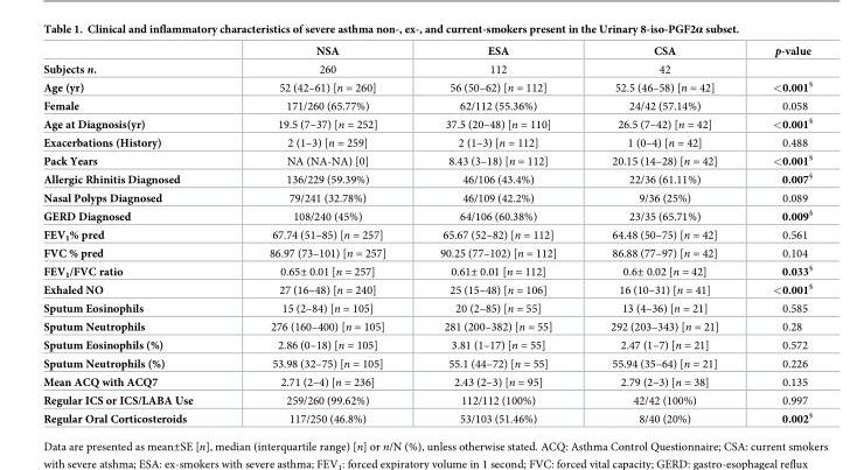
<table><thead><tr><td></td><td>NSA</td><td>ESA</td><td>CSA</td><td>p-value</td></tr></thead><tbody><tr><td>Subjects n.</td><td>260</td><td>112</td><td>42</td><td></td></tr><tr><td>Age (yr)</td><td>52 (42–61) [n = 260]</td><td>56 (50–62) [n = 112]</td><td>52.5 (46–58) [n = 42]</td><td>&lt;0.001<sup>§</sup></td></tr><tr><td>Female</td><td>171/260 (65.77%)</td><td>62/112 (55.36%)</td><td>24/42 (57.14%)</td><td>0.058</td></tr><tr><td>Age at Diagnosis(yr)</td><td>19.5 (7–37) [n = 252]</td><td>37.5 (20–48) [n = 110]</td><td>26.5 (7–42) [n = 42]</td><td>&lt;0.001<sup>§</sup></td></tr><tr><td>Exacerbations (History)</td><td>2 (1–3) [n = 259]</td><td>2 (1–3) [n = 112]</td><td>1 (0–4) [n = 42]</td><td>0.488</td></tr><tr><td>Pack Years</td><td>NA (NA-NA) [0]</td><td>8.43 (3–18) [n = 112]</td><td>20.15 (14–28) [n = 42]</td><td>&lt;0.001<sup>§</sup></td></tr><tr><td>Allergic Rhinitis Diagnosed</td><td>136/229 (59.39%)</td><td>46/106 (43.4%)</td><td>22/36 (61.11%)</td><td>0.007<sup>§</sup></td></tr><tr><td>Nasal Polyps Diagnosed</td><td>79/241 (32.78%)</td><td>46/109 (42.2%)</td><td>9/36 (25%)</td><td>0.089</td></tr><tr><td>GERD Diagnosed</td><td>108/240 (45%)</td><td>64/106 (60.38%)</td><td>23/35 (65.71%)</td><td>0.009<sup>§</sup></td></tr><tr><td>FEV<sub>1</sub>% pred</td><td>67.74 (51–85) [n = 257]</td><td>65.67 (52–82) [n = 112]</td><td>64.48 (50–75) [n = 42]</td><td>0.561</td></tr><tr><td>FVC % pred</td><td>86.97 (73–101) [n = 257]</td><td>90.25 (77–102) [n = 112]</td><td>86.88 (77–97) [n = 42]</td><td>0.104</td></tr><tr><td>FEV<sub>1</sub>/FVC ratio</td><td>0.65± 0.01 [n = 257]</td><td>0.61± 0.01 [n = 112]</td><td>0.6± 0.02 [n = 42]</td><td>0.033<sup>§</sup></td></tr><tr><td>Exhaled NO</td><td>27 (16–48) [n = 240]</td><td>25 (15–48) [n = 106]</td><td>16 (10–31) [n = 41]</td><td>&lt;0.001<sup>§</sup></td></tr><tr><td>Sputum Eosinophils</td><td>15 (2–84) [n = 105]</td><td>20 (2–85) [n = 55]</td><td>13 (4–36) [n = 21]</td><td>0.585</td></tr><tr><td>Sputum Neutrophils</td><td>276 (160–400) [n = 105]</td><td>281 (200–382) [n = 55]</td><td>292 (203–343) [n = 21]</td><td>0.28</td></tr><tr><td>Sputum Eosinophils (%)</td><td>2.86 (0–18) [n = 105]</td><td>3.81 (1–17) [n = 55]</td><td>2.47 (1–7) [n = 21]</td><td>0.572</td></tr><tr><td>Sputum Neutrophils (%)</td><td>53.98 (32–75) [n = 105]</td><td>55.1 (44–72) [n = 55]</td><td>55.94 (35–64) [n = 21]</td><td>0.226</td></tr><tr><td>Mean ACQ with ACQ7</td><td>2.71 (2–4) [n = 236]</td><td>2.43 (2–3) [n = 95]</td><td>2.79 (2–3) [n = 38]</td><td>0.135</td></tr><tr><td>Regular ICS or ICS/LABA Use</td><td>259/260 (99.62%)</td><td>112/112 (100%)</td><td>42/42 (100%)</td><td>0.997</td></tr><tr><td>Regular Oral Corticosteroids</td><td>117/250 (46.8%)</td><td>53/103 (51.46%)</td><td>8/40 (20%)</td><td>0.002<sup>§</sup></td></tr></tbody></table>